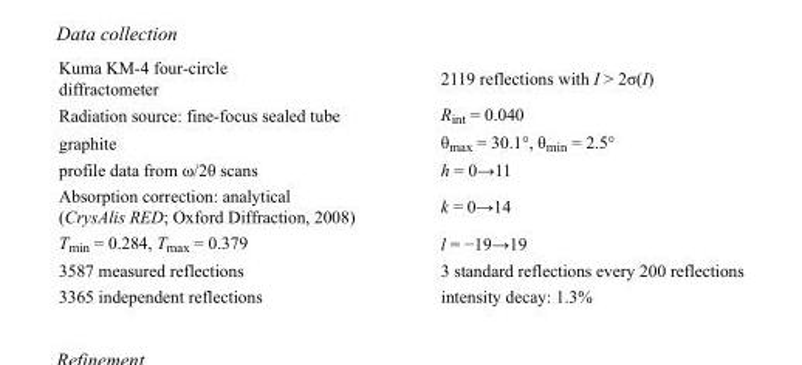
<table><tbody><tr><td>Kuma KM-4 four-circle diffractometer</td><td>2119 reflections with I &gt; 2σ(I)</td></tr><tr><td>Radiation source: fine-focus sealed tube</td><td>R<sub>int</sub> = 0.040</td></tr><tr><td>graphite</td><td>θ<sub>max</sub> = 30.1°, θ<sub>min</sub> = 2.5°</td></tr><tr><td>profile data from ω/2θ scans</td><td>h = 0→11</td></tr><tr><td>Absorption correction: analytical (CrysAlis RED; Oxford Diffraction, 2008)</td><td>k = 0→14</td></tr><tr><td>T<sub>min</sub> = 0.284, T<sub>max</sub> = 0.379</td><td>l = −19→19</td></tr><tr><td>3587 measured reflections</td><td>3 standard reflections every 200 reflections</td></tr><tr><td>3365 independent reflections</td><td>intensity decay: 1.3%</td></tr></tbody></table>